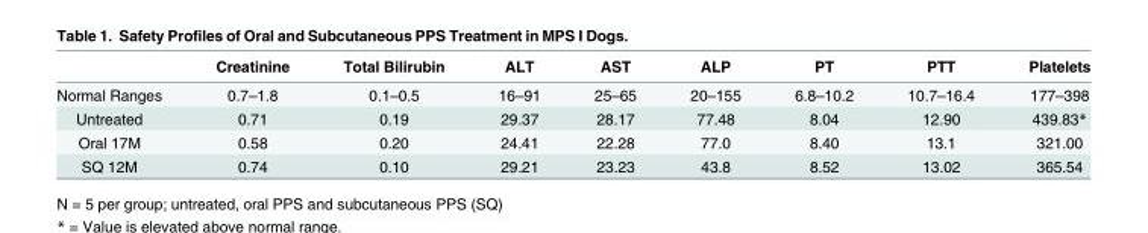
<table><thead><tr><td></td><td>Creatinine</td><td>Total Bilirubin</td><td>ALT</td><td>AST</td><td>ALP</td><td>PT</td><td>PTT</td><td>Platelets</td></tr></thead><tbody><tr><td>Normal Ranges</td><td>0.7–1.8</td><td>0.1–0.5</td><td>16–91</td><td>25–65</td><td>20–155</td><td>6.8–10.2</td><td>10.7–16.4</td><td>177–398</td></tr><tr><td>Untreated</td><td>0.71</td><td>0.19</td><td>29.37</td><td>28.17</td><td>77.48</td><td>8.04</td><td>12.90</td><td>439.83*</td></tr><tr><td>Oral 17M</td><td>0.58</td><td>0.20</td><td>24.41</td><td>22.28</td><td>77.0</td><td>8.40</td><td>13.1</td><td>321.00</td></tr><tr><td>SQ 12M</td><td>0.74</td><td>0.10</td><td>29.21</td><td>23.23</td><td>43.8</td><td>8.52</td><td>13.02</td><td>365.54</td></tr></tbody></table>